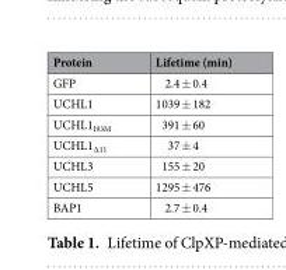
<table><thead><tr><td>Protein</td><td>Lifetime (min)</td></tr></thead><tbody><tr><td>GFP</td><td>2.4 ± 0.4</td></tr><tr><td>UCHL1</td><td>1039 ± 182</td></tr><tr><td>UCHL1<sub>I93M</sub></td><td>391 ± 60</td></tr><tr><td>UCHL1<sub>∆11</sub></td><td>37 ± 4</td></tr><tr><td>UCHL3</td><td>155 ± 20</td></tr><tr><td>UCHL5</td><td>1295 ± 476</td></tr><tr><td>BAP1</td><td>2.7 ± 0.4</td></tr></tbody></table>